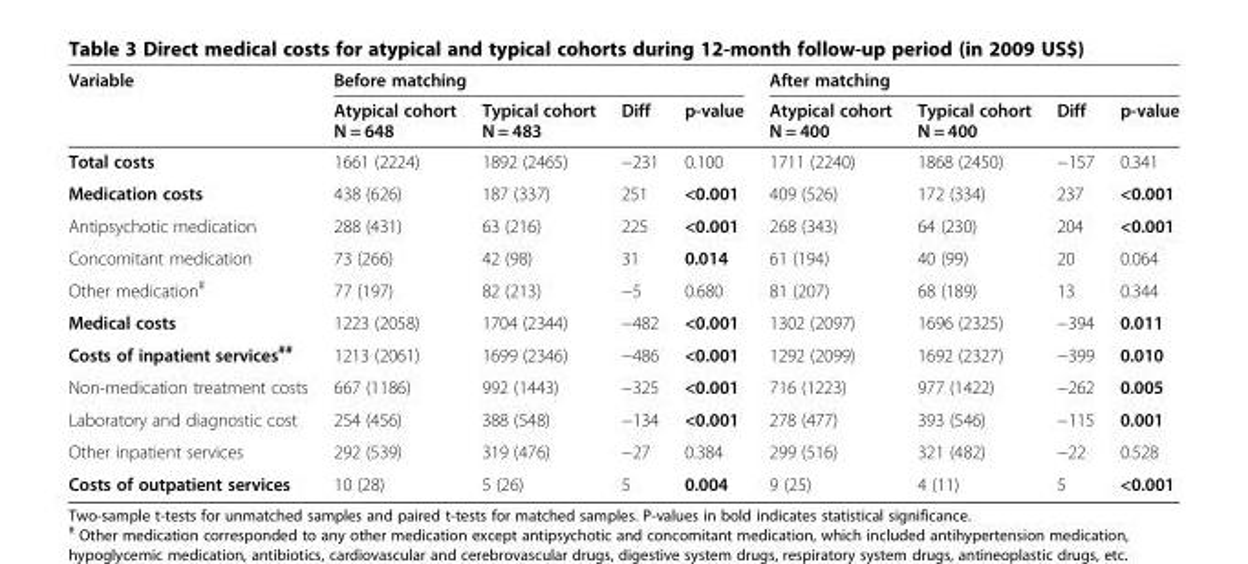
<table><thead><tr><td rowspan="2">Variable</td><td colspan="4">Before matching</td><td colspan="4">After matching</td></tr><tr><td>Atypical cohort N = 648</td><td>Typical cohort N = 483</td><td>Diff</td><td>p-value</td><td>Atypical cohort N = 400</td><td>Typical cohort N = 400</td><td>Diff</td><td>p-value</td></tr></thead><tbody><tr><td>Total costs</td><td>1661 (2224)</td><td>1892 (2465)</td><td>−231</td><td>0.100</td><td>1711 (2240)</td><td>1868 (2450)</td><td>−157</td><td>0.341</td></tr><tr><td>Medication costs</td><td>438 (626)</td><td>187 (337)</td><td>251</td><td>&lt;0.001</td><td>409 (526)</td><td>172 (334)</td><td>237</td><td>&lt;0.001</td></tr><tr><td>Antipsychotic medication</td><td>288 (431)</td><td>63 (216)</td><td>225</td><td>&lt;0.001</td><td>268 (343)</td><td>64 (230)</td><td>204</td><td>&lt;0.001</td></tr><tr><td>Concomitant medication</td><td>73 (266)</td><td>42 (98)</td><td>31</td><td>0.014</td><td>61 (194)</td><td>40 (99)</td><td>20</td><td>0.064</td></tr><tr><td>Other medication<sup>#</sup></td><td>77 (197)</td><td>82 (213)</td><td>−5</td><td>0.680</td><td>81 (207)</td><td>68 (189)</td><td>13</td><td>0.344</td></tr><tr><td>Medical costs</td><td>1223 (2058)</td><td>1704 (2344)</td><td>−482</td><td>&lt;0.001</td><td>1302 (2097)</td><td>1696 (2325)</td><td>−394</td><td>0.011</td></tr><tr><td>Costs of inpatient services<sup>##</sup></td><td>1213 (2061)</td><td>1699 (2346)</td><td>−486</td><td>&lt;0.001</td><td>1292 (2099)</td><td>1692 (2327)</td><td>−399</td><td>0.010</td></tr><tr><td>Non-medication treatment costs</td><td>667 (1186)</td><td>992 (1443)</td><td>−325</td><td>&lt;0.001</td><td>716 (1223)</td><td>977 (1422)</td><td>−262</td><td>0.005</td></tr><tr><td>Laboratory and diagnostic cost</td><td>254 (456)</td><td>388 (548)</td><td>−134</td><td>&lt;0.001</td><td>278 (477)</td><td>393 (546)</td><td>−115</td><td>0.001</td></tr><tr><td>Other inpatient services</td><td>292 (539)</td><td>319 (476)</td><td>−27</td><td>0.384</td><td>299 (516)</td><td>321 (482)</td><td>−22</td><td>0.528</td></tr><tr><td>Costs of outpatient services</td><td>10 (28)</td><td>5 (26)</td><td>5</td><td>0.004</td><td>9 (25)</td><td>4 (11)</td><td>5</td><td>&lt;0.001</td></tr></tbody></table>